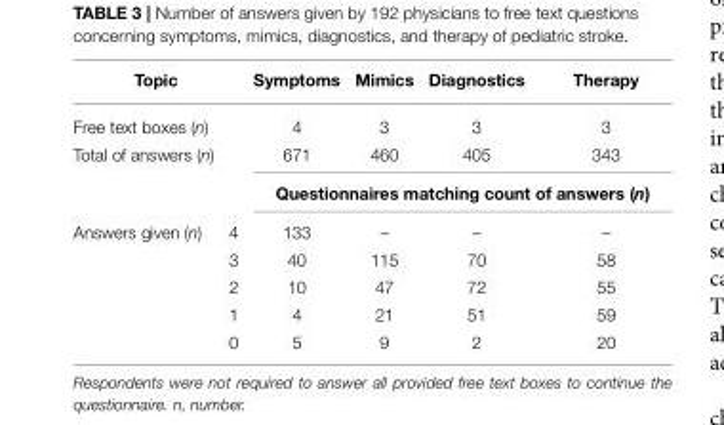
<table><thead><tr><td colspan="2">Topic</td><td rowspan="2">Symptoms 4</td><td rowspan="2">Mimics 3</td><td rowspan="2">Diagnostics 3</td><td rowspan="2">Therapy 3</td></tr><tr><td>Free text boxes (n)</td><td></td></tr></thead><tbody><tr><td rowspan="2">Total of answers (n)</td><td></td><td>671</td><td>460</td><td>405</td><td>343</td></tr><tr><td></td><td colspan="4">Questionnaires matching count of answers (n)</td></tr><tr><td rowspan="5">Answers given (n)</td><td>4</td><td>133</td><td>–</td><td>–</td><td>–</td></tr><tr><td>3</td><td>40</td><td>115</td><td>70</td><td>58</td></tr><tr><td>2</td><td>10</td><td>47</td><td>72</td><td>55</td></tr><tr><td>1</td><td>4</td><td>21</td><td>51</td><td>59</td></tr><tr><td>0</td><td>5</td><td>9</td><td>2</td><td>20</td></tr></tbody></table>